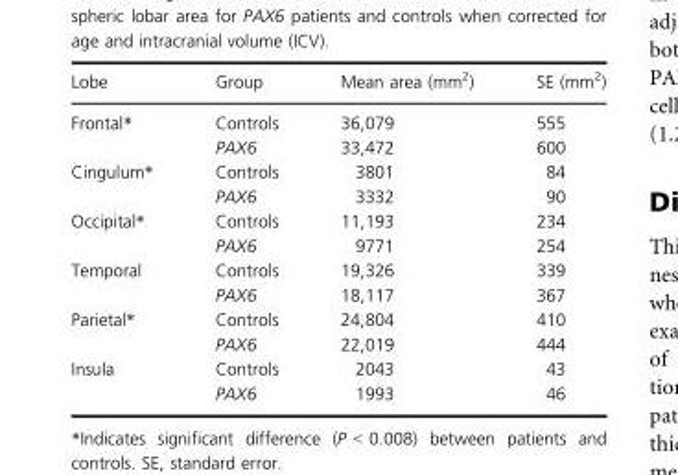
<table><thead><tr><td>Lobe</td><td>Group</td><td>Mean area (mm<sup>2</sup>)</td><td>SE (mm<sup>2</sup>)</td></tr></thead><tbody><tr><td rowspan="2">Frontal*</td><td>Controls</td><td>36,079</td><td>555</td></tr><tr><td>PAX6</td><td>33,472</td><td>600</td></tr><tr><td rowspan="2">Cingulum*</td><td>Controls</td><td>3801</td><td>84</td></tr><tr><td>PAX6</td><td>3332</td><td>90</td></tr><tr><td rowspan="2">Occipital*</td><td>Controls</td><td>11,193</td><td>234</td></tr><tr><td>PAX6</td><td>9771</td><td>254</td></tr><tr><td rowspan="2">Temporal</td><td>Controls</td><td>19,326</td><td>339</td></tr><tr><td>PAX6</td><td>18,117</td><td>367</td></tr><tr><td rowspan="2">Parietal*</td><td>Controls</td><td>24,804</td><td>410</td></tr><tr><td>PAX6</td><td>22,019</td><td>444</td></tr><tr><td rowspan="2">Insula</td><td>Controls</td><td>2043</td><td>43</td></tr><tr><td>PAX6</td><td>1993</td><td>46</td></tr></tbody></table>